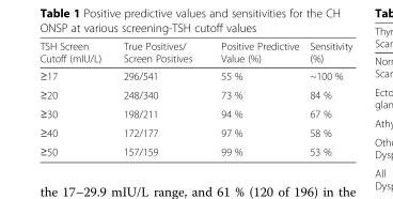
<table><thead><tr><td>TSH Screen Cutoff (mIU/L)</td><td>True Positives/ Screen Positives</td><td>Positive Predictive Value (%)</td><td>Sensitivity (%)</td></tr></thead><tbody><tr><td>≥17</td><td>296/541</td><td>55 %</td><td>~100 %</td></tr><tr><td>≥20</td><td>248/340</td><td>73 %</td><td>84 %</td></tr><tr><td>≥30</td><td>198/211</td><td>94 %</td><td>67 %</td></tr><tr><td>≥40</td><td>172/177</td><td>97 %</td><td>58 %</td></tr><tr><td>≥50</td><td>157/159</td><td>99 %</td><td>53 %</td></tr></tbody></table>